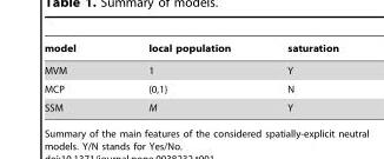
<table><thead><tr><td>model</td><td>local population</td><td>saturation</td></tr></thead><tbody><tr><td>MVM</td><td>1</td><td>Y</td></tr><tr><td>MCP</td><td>{0,1}</td><td>N</td></tr><tr><td>SSM</td><td>M</td><td>Y</td></tr></tbody></table>